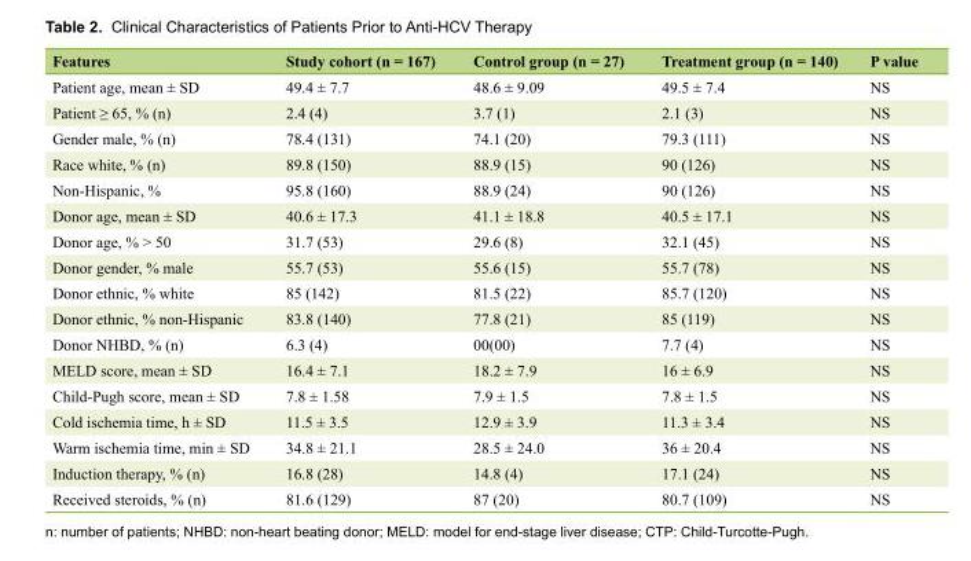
<table><thead><tr><td>Features</td><td>Study cohort (n = 167)</td><td>Control group (n = 27)</td><td>Treatment group (n = 140)</td><td>P value</td></tr></thead><tbody><tr><td>Patient age, mean ± SD</td><td>49.4 ± 7.7</td><td>48.6 ± 9.09</td><td>49.5 ± 7.4</td><td>NS</td></tr><tr><td>Patient ≥ 65, % (n)</td><td>2.4 (4)</td><td>3.7 (1)</td><td>2.1 (3)</td><td>NS</td></tr><tr><td>Gender male, % (n)</td><td>78.4 (131)</td><td>74.1 (20)</td><td>79.3 (111)</td><td>NS</td></tr><tr><td>Race white, % (n)</td><td>89.8 (150)</td><td>88.9 (15)</td><td>90 (126)</td><td>NS</td></tr><tr><td>Non-Hispanic, %</td><td>95.8 (160)</td><td>88.9 (24)</td><td>90 (126)</td><td>NS</td></tr><tr><td>Donor age, mean ± SD</td><td>40.6 ± 17.3</td><td>41.1 ± 18.8</td><td>40.5 ± 17.1</td><td>NS</td></tr><tr><td>Donor age, % &gt; 50</td><td>31.7 (53)</td><td>29.6 (8)</td><td>32.1 (45)</td><td>NS</td></tr><tr><td>Donor gender, % male</td><td>55.7 (53)</td><td>55.6 (15)</td><td>55.7 (78)</td><td>NS</td></tr><tr><td>Donor ethnic, % white</td><td>85 (142)</td><td>81.5 (22)</td><td>85.7 (120)</td><td>NS</td></tr><tr><td>Donor ethnic, % non-Hispanic</td><td>83.8 (140)</td><td>77.8 (21)</td><td>85 (119)</td><td>NS</td></tr><tr><td>Donor NHBD, % (n)</td><td>6.3 (4)</td><td>00(00)</td><td>7.7 (4)</td><td>NS</td></tr><tr><td>MELD score, mean ± SD</td><td>16.4 ± 7.1</td><td>18.2 ± 7.9</td><td>16 ± 6.9</td><td>NS</td></tr><tr><td>Child-Pugh score, mean ± SD</td><td>7.8 ± 1.58</td><td>7.9 ± 1.5</td><td>7.8 ± 1.5</td><td>NS</td></tr><tr><td>Cold ischemia time, h ± SD</td><td>11.5 ± 3.5</td><td>12.9 ± 3.9</td><td>11.3 ± 3.4</td><td>NS</td></tr><tr><td>Warm ischemia time, min ± SD</td><td>34.8 ± 21.1</td><td>28.5 ± 24.0</td><td>36 ± 20.4</td><td>NS</td></tr><tr><td>Induction therapy, % (n)</td><td>16.8 (28)</td><td>14.8 (4)</td><td>17.1 (24)</td><td>NS</td></tr><tr><td>Received steroids, % (n)</td><td>81.6 (129)</td><td>87 (20)</td><td>80.7 (109)</td><td>NS</td></tr></tbody></table>